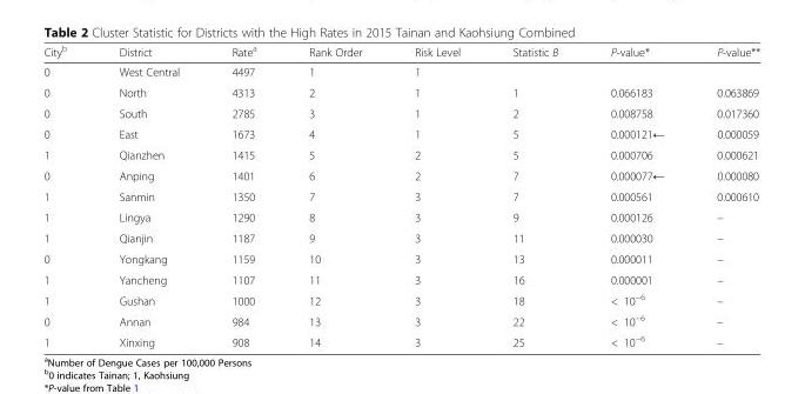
<table><thead><tr><td>City<sup>b</sup></td><td>District</td><td>Rate<sup>a</sup></td><td>Rank Order</td><td>Risk Level</td><td>Statistic B</td><td>P-value*</td><td>P-value**</td></tr></thead><tbody><tr><td>0</td><td>West Central</td><td>4497</td><td>1</td><td>1</td><td></td><td></td><td></td></tr><tr><td>0</td><td>North</td><td>4313</td><td>2</td><td>1</td><td>1</td><td>0.066183</td><td>0.063869</td></tr><tr><td>0</td><td>South</td><td>2785</td><td>3</td><td>1</td><td>2</td><td>0.008758</td><td>0.017360</td></tr><tr><td>0</td><td>East</td><td>1673</td><td>4</td><td>1</td><td>5</td><td>0.000121←</td><td>0.000059</td></tr><tr><td>1</td><td>Qianzhen</td><td>1415</td><td>5</td><td>2</td><td>5</td><td>0.000706</td><td>0.000621</td></tr><tr><td>0</td><td>Anping</td><td>1401</td><td>6</td><td>2</td><td>7</td><td>0.000077←</td><td>0.000080</td></tr><tr><td>1</td><td>Sanmin</td><td>1350</td><td>7</td><td>3</td><td>7</td><td>0.000561</td><td>0.000610</td></tr><tr><td>1</td><td>Lingya</td><td>1290</td><td>8</td><td>3</td><td>9</td><td>0.000126</td><td>–</td></tr><tr><td>1</td><td>Qianjin</td><td>1187</td><td>9</td><td>3</td><td>11</td><td>0.000030</td><td>–</td></tr><tr><td>0</td><td>Yongkang</td><td>1159</td><td>10</td><td>3</td><td>13</td><td>0.000011</td><td>–</td></tr><tr><td>1</td><td>Yancheng</td><td>1107</td><td>11</td><td>3</td><td>16</td><td>0.000001</td><td>–</td></tr><tr><td>1</td><td>Gushan</td><td>1000</td><td>12</td><td>3</td><td>18</td><td>&lt; 10<sup>−6</sup></td><td>–</td></tr><tr><td>0</td><td>Annan</td><td>984</td><td>13</td><td>3</td><td>22</td><td>&lt; 10<sup>−6</sup></td><td>–</td></tr><tr><td>1</td><td>Xinxing</td><td>908</td><td>14</td><td>3</td><td>25</td><td>&lt; 10<sup>−6</sup></td><td>–</td></tr></tbody></table>